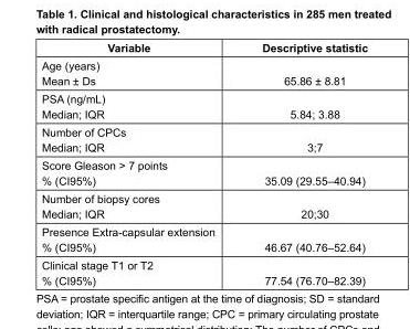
<table><thead><tr><td>Variable</td><td>Descriptive statistic</td></tr></thead><tbody><tr><td>Age (years) Mean ± Ds</td><td>65.86 ± 8.81</td></tr><tr><td>PSA (ng/mL) Median; IQR</td><td>5.84; 3.88</td></tr><tr><td>Number of CPCs Median; IQR</td><td>3;7</td></tr><tr><td>Score Gleason &gt; 7 points % (CI95%)</td><td>35.09 (29.55–40.94)</td></tr><tr><td>Number of biopsy cores Median; IQR</td><td>20;30</td></tr><tr><td>Presence Extra-capsular extension % (CI95%)</td><td>46.67 (40.76–52.64)</td></tr><tr><td>Clinical stage T1 or T2 % (CI95%)</td><td>77.54 (76.70–82.39)</td></tr></tbody></table>